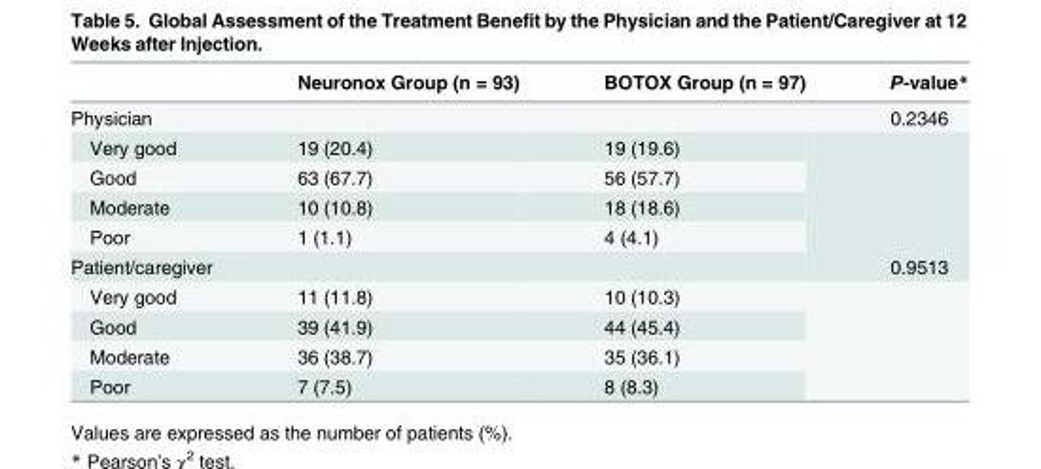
<table><thead><tr><td></td><td>Neuronox Group (n = 93)</td><td>BOTOX Group (n = 97)</td><td>P-value*</td></tr></thead><tbody><tr><td>Physician</td><td></td><td></td><td>0.2346</td></tr><tr><td>Very good</td><td>19 (20.4)</td><td>19 (19.6)</td><td rowspan="4"></td></tr><tr><td>Good</td><td>63 (67.7)</td><td>56 (57.7)</td></tr><tr><td>Moderate</td><td>10 (10.8)</td><td>18 (18.6)</td></tr><tr><td>Poor</td><td>1 (1.1)</td><td>4 (4.1)</td></tr><tr><td>Patient/caregiver</td><td></td><td></td><td>0.9513</td></tr><tr><td>Very good</td><td>11 (11.8)</td><td>10 (10.3)</td><td rowspan="4"></td></tr><tr><td>Good</td><td>39 (41.9)</td><td>44 (45.4)</td></tr><tr><td>Moderate</td><td>36 (38.7)</td><td>35 (36.1)</td></tr><tr><td>Poor</td><td>7 (7.5)</td><td>8 (8.3)</td></tr></tbody></table>